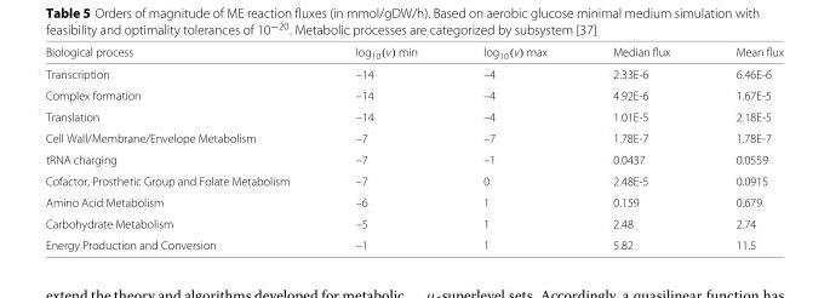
<table><thead><tr><td>Biological process</td><td>log10(v) min</td><td>log10(v) max</td><td>Median flux</td><td>Mean flux</td></tr></thead><tbody><tr><td>Transcription</td><td>–14</td><td>–4</td><td>2.33E-6</td><td>6.46E-6</td></tr><tr><td>Complex formation</td><td>–14</td><td>–4</td><td>4.92E-6</td><td>1.67E-5</td></tr><tr><td>Translation</td><td>–14</td><td>–4</td><td>1.01E-5</td><td>2.18E-5</td></tr><tr><td>Cell Wall/Membrane/Envelope Metabolism</td><td>–7</td><td>–7</td><td>1.78E-7</td><td>1.78E-7</td></tr><tr><td>tRNA charging</td><td>–7</td><td>–1</td><td>0.0437</td><td>0.0559</td></tr><tr><td>Cofactor, Prosthetic Group and Folate Metabolism</td><td>–7</td><td>0</td><td>2.48E-5</td><td>0.0915</td></tr><tr><td>Amino Acid Metabolism</td><td>–6</td><td>1</td><td>0.159</td><td>0.679</td></tr><tr><td>Carbohydrate Metabolism</td><td>–5</td><td>1</td><td>2.48</td><td>2.74</td></tr><tr><td>Energy Production and Conversion</td><td>–1</td><td>1</td><td>5.82</td><td>11.5</td></tr></tbody></table>